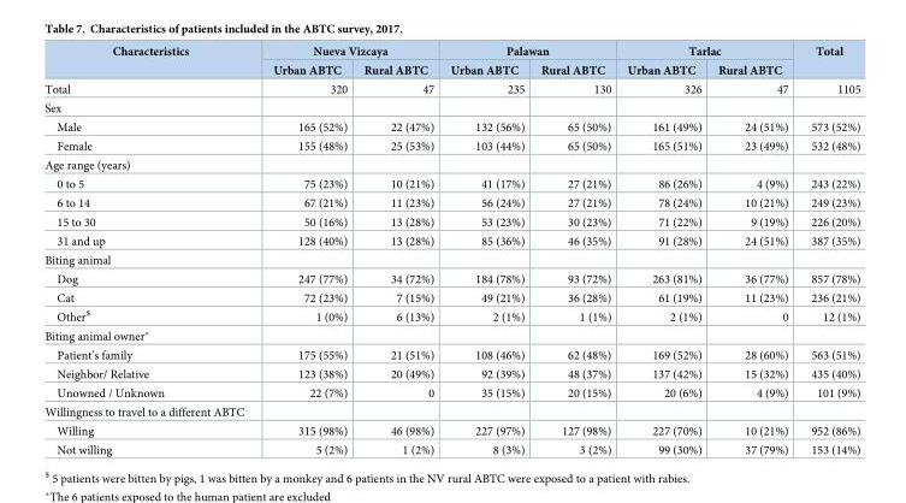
<table><thead><tr><td rowspan="2">Characteristics</td><td colspan="2">Nueva Vizcaya</td><td colspan="2">Palawan</td><td colspan="2">Tarlac</td><td rowspan="2">Total</td></tr><tr><td>Urban ABTC</td><td>Rural ABTC</td><td>Urban ABTC</td><td>Rural ABTC</td><td>Urban ABTC</td><td>Rural ABTC</td></tr></thead><tbody><tr><td>Total</td><td>320</td><td>47</td><td>235</td><td>130</td><td>326</td><td>47</td><td>1105</td></tr><tr><td colspan="8">Sex</td></tr><tr><td>Male</td><td>165 (52%)</td><td>22 (47%)</td><td>132 (56%)</td><td>65 (50%)</td><td>161 (49%)</td><td>24 (51%)</td><td>573 (52%)</td></tr><tr><td>Female</td><td>155 (48%)</td><td>25 (53%)</td><td>103 (44%)</td><td>65 (50%)</td><td>165 (51%)</td><td>23 (49%)</td><td>532 (48%)</td></tr><tr><td colspan="8">Age range (years)</td></tr><tr><td>0 to 5</td><td>75 (23%)</td><td>10 (21%)</td><td>41 (17%)</td><td>27 (21%)</td><td>86 (26%)</td><td>4 (9%)</td><td>243 (22%)</td></tr><tr><td>6 to 14</td><td>67 (21%)</td><td>11 (23%)</td><td>56 (24%)</td><td>27 (21%)</td><td>78 (24%)</td><td>10 (21%)</td><td>249 (23%)</td></tr><tr><td>15 to 30</td><td>50 (16%)</td><td>13 (28%)</td><td>53 (23%)</td><td>30 (23%)</td><td>71 (22%)</td><td>9 (19%)</td><td>226 (20%)</td></tr><tr><td>31 and up</td><td>128 (40%)</td><td>13 (28%)</td><td>85 (36%)</td><td>46 (35%)</td><td>91 (28%)</td><td>24 (51%)</td><td>387 (35%)</td></tr><tr><td colspan="8">Biting animal</td></tr><tr><td>Dog</td><td>247 (77%)</td><td>34 (72%)</td><td>184 (78%)</td><td>93 (72%)</td><td>263 (81%)</td><td>36 (77%)</td><td>857 (78%)</td></tr><tr><td>Cat</td><td>72 (23%)</td><td>7 (15%)</td><td>49 (21%)</td><td>36 (28%)</td><td>61 (19%)</td><td>11 (23%)</td><td>236 (21%)</td></tr><tr><td>Other<sup>$</sup></td><td>1 (0%)</td><td>6 (13%)</td><td>2 (1%)</td><td>1 (1%)</td><td>2 (1%)</td><td>0</td><td>12 (1%)</td></tr><tr><td colspan="8">Biting animal owner*</td></tr><tr><td>Patient’s family</td><td>175 (55%)</td><td>21 (51%)</td><td>108 (46%)</td><td>62 (48%)</td><td>169 (52%)</td><td>28 (60%)</td><td>563 (51%)</td></tr><tr><td>Neighbor/ Relative</td><td>123 (38%)</td><td>20 (49%)</td><td>92 (39%)</td><td>48 (37%)</td><td>137 (42%)</td><td>15 (32%)</td><td>435 (40%)</td></tr><tr><td>Unowned / Unknown</td><td>22 (7%)</td><td>0</td><td>35 (15%)</td><td>20 (15%)</td><td>20 (6%)</td><td>4 (9%)</td><td>101 (9%)</td></tr><tr><td colspan="8">Willingness to travel to a different ABTC</td></tr><tr><td>Willing</td><td>315 (98%)</td><td>46 (98%)</td><td>227 (97%)</td><td>127 (98%)</td><td>227 (70%)</td><td>10 (21%)</td><td>952 (86%)</td></tr><tr><td>Not willing</td><td>5 (2%)</td><td>1 (2%)</td><td>8 (3%)</td><td>3 (2%)</td><td>99 (30%)</td><td>37 (79%)</td><td>153 (14%)</td></tr></tbody></table>